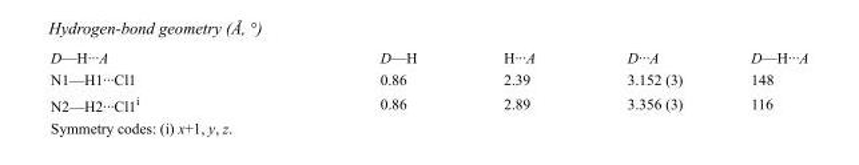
<table><tbody><tr><td>D—H···A</td><td>D—H</td><td>H···A</td><td>D···A</td><td>D—H···A</td></tr><tr><td>N1—H1···Cl1</td><td>0.86</td><td>2.39</td><td>3.152 (3)</td><td>148</td></tr><tr><td>N2—H2···Cl1<sup>i</sup></td><td>0.86</td><td>2.89</td><td>3.356 (3)</td><td>116</td></tr></tbody></table>